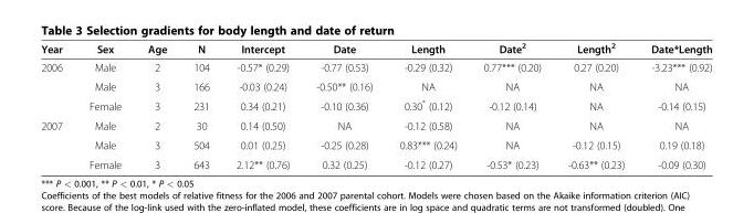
<table><thead><tr><td>Year</td><td>Sex</td><td>Age</td><td>N</td><td>Intercept</td><td>Date</td><td>Length</td><td>Date<sup>2</sup></td><td>Length<sup>2</sup></td><td>Date*Length</td></tr></thead><tbody><tr><td rowspan="3">2006</td><td>Male</td><td>2</td><td>104</td><td>-0.57* (0.29)</td><td>-0.77 (0.53)</td><td>-0.29 (0.32)</td><td>0.77*** (0.20)</td><td>0.27 (0.20)</td><td>-3.23*** (0.92)</td></tr><tr><td>Male</td><td>3</td><td>166</td><td>-0.03 (0.24)</td><td>-0.50** (0.16)</td><td>NA</td><td>NA</td><td>NA</td><td>NA</td></tr><tr><td>Female</td><td>3</td><td>231</td><td>0.34 (0.21)</td><td>-0.10 (0.36)</td><td>0.30* (0.12)</td><td>-0.12 (0.14)</td><td>NA</td><td>-0.14 (0.15)</td></tr><tr><td rowspan="3">2007</td><td>Male</td><td>2</td><td>30</td><td>0.14 (0.50)</td><td>NA</td><td>-0.12 (0.58)</td><td>NA</td><td>NA</td><td>NA</td></tr><tr><td>Male</td><td>3</td><td>504</td><td>0.01 (0.25)</td><td>-0.25 (0.28)</td><td>0.83*** (0.24)</td><td>NA</td><td>-0.12 (0.15)</td><td>0.19 (0.18)</td></tr><tr><td>Female</td><td>3</td><td>643</td><td>2.12** (0.76)</td><td>0.32 (0.25)</td><td>-0.12 (0.27)</td><td>-0.53* (0.23)</td><td>-0.63** (0.23)</td><td>-0.09 (0.30)</td></tr></tbody></table>